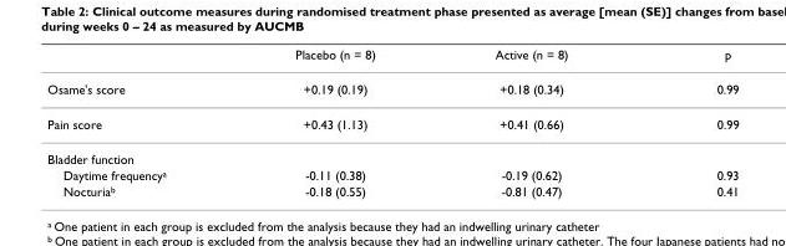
<table><thead><tr><td></td><td>Placebo (n = 8)</td><td>Active (n = 8)</td><td>p</td></tr></thead><tbody><tr><td>Osame&#x27;s score</td><td>+0.19 (0.19)</td><td>+0.18 (0.34)</td><td>0.99</td></tr><tr><td>Pain score</td><td>+0.43 (1.13)</td><td>+0.41 (0.66)</td><td>0.99</td></tr><tr><td colspan="4">Bladder function</td></tr><tr><td>Daytime frequency<sup>a</sup></td><td>-0.11 (0.38)</td><td>-0.19 (0.62)</td><td>0.93</td></tr><tr><td>Nocturia<sup>b</sup></td><td>-0.18 (0.55)</td><td>-0.81 (0.47)</td><td>0.41</td></tr></tbody></table>